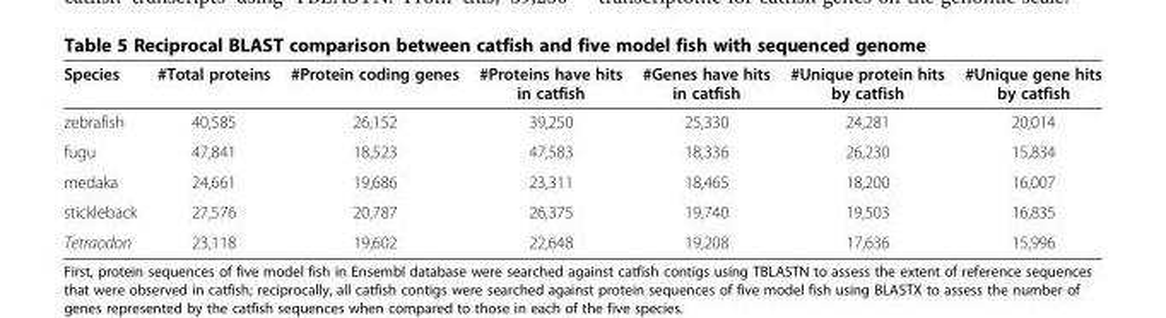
<table><thead><tr><td>Species</td><td>#Total proteins</td><td>#Protein coding genes</td><td>#Proteins have hits in catfish</td><td>#Genes have hits in catfish</td><td>#Unique protein hits by catfish</td><td>#Unique gene hits by catfish</td></tr></thead><tbody><tr><td>zebrafish</td><td>40,585</td><td>26,152</td><td>39,250</td><td>25,330</td><td>24,281</td><td>20,014</td></tr><tr><td>fugu</td><td>47,841</td><td>18,523</td><td>47,583</td><td>18,336</td><td>26,230</td><td>15,834</td></tr><tr><td>medaka</td><td>24,661</td><td>19,686</td><td>23,311</td><td>18,465</td><td>18,200</td><td>16,007</td></tr><tr><td>stickleback</td><td>27,576</td><td>20,787</td><td>26,375</td><td>19,740</td><td>19,503</td><td>16,835</td></tr><tr><td>Tetraodon</td><td>23,118</td><td>19,602</td><td>22,648</td><td>19,208</td><td>17,636</td><td>15,996</td></tr></tbody></table>